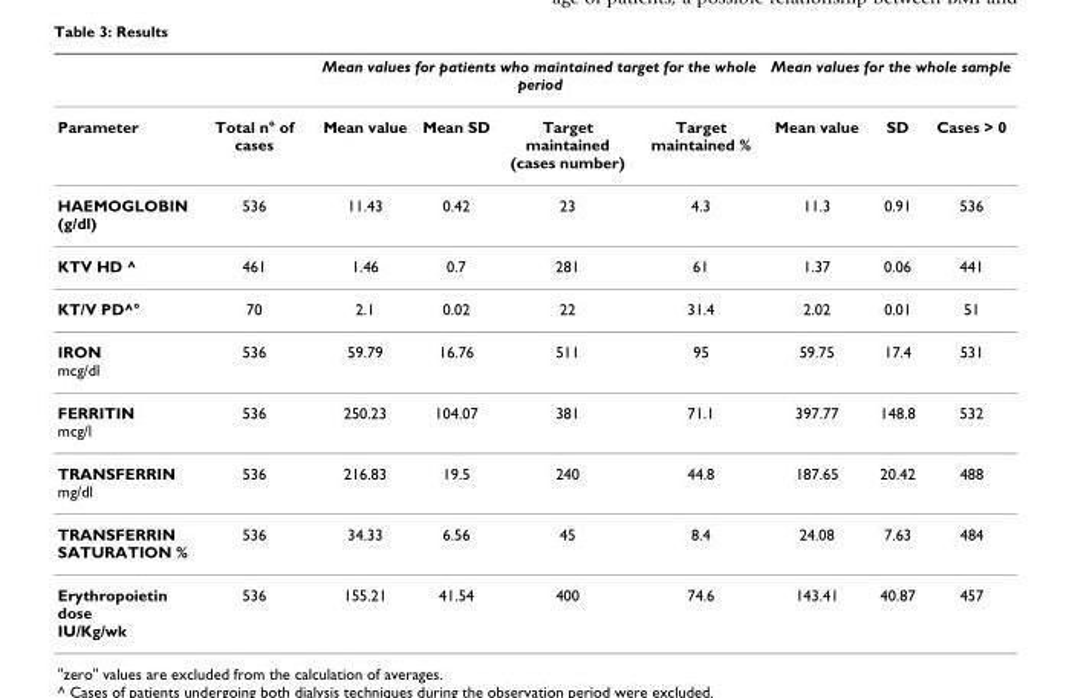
<table><thead><tr><td rowspan="2">Parameter</td><td rowspan="2">Total n° of cases</td><td colspan="4">Mean values for patients who maintained target for the whole period</td><td colspan="3">Mean values for the whole sample</td></tr><tr><td>Mean value</td><td>Mean SD</td><td>Target maintained (cases number)</td><td>Target maintained %</td><td>Mean value</td><td>SD</td><td>Cases &gt; 0</td></tr></thead><tbody><tr><td>HAEMOGLOBIN (g/dl)</td><td>536</td><td>11.43</td><td>0.42</td><td>23</td><td>4.3</td><td>11.3</td><td>0.91</td><td>536</td></tr><tr><td>KTV HD ^</td><td>461</td><td>1.46</td><td>0.7</td><td>281</td><td>61</td><td>1.37</td><td>0.06</td><td>441</td></tr><tr><td>KT/V PD^°</td><td>70</td><td>2.1</td><td>0.02</td><td>22</td><td>31.4</td><td>2.02</td><td>0.01</td><td>51</td></tr><tr><td>IRON mcg/dl</td><td>536</td><td>59.79</td><td>16.76</td><td>511</td><td>95</td><td>59.75</td><td>17.4</td><td>531</td></tr><tr><td>FERRITIN mcg/l</td><td>536</td><td>250.23</td><td>104.07</td><td>381</td><td>71.1</td><td>397.77</td><td>148.8</td><td>532</td></tr><tr><td>TRANSFERRIN mg/dl</td><td>536</td><td>216.83</td><td>19.5</td><td>240</td><td>44.8</td><td>187.65</td><td>20.42</td><td>488</td></tr><tr><td>TRANSFERRIN SATURATION %</td><td>536</td><td>34.33</td><td>6.56</td><td>45</td><td>8.4</td><td>24.08</td><td>7.63</td><td>484</td></tr><tr><td>Erythropoietin dose IU/Kg/wk</td><td>536</td><td>155.21</td><td>41.54</td><td>400</td><td>74.6</td><td>143.41</td><td>40.87</td><td>457</td></tr></tbody></table>